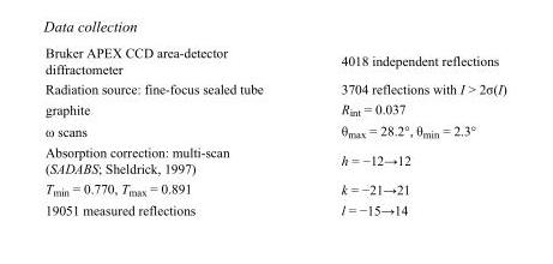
<table><tbody><tr><td>Bruker APEX CCD area-detector diffractometer</td><td>4018 independent reflections</td></tr><tr><td>Radiation source: fine-focus sealed tube</td><td>3704 reflections with I &gt; 2σ(I)</td></tr><tr><td>graphite</td><td>R<sub>int</sub> = 0.037</td></tr><tr><td>ω scans</td><td>θ<sub>max</sub> = 28.2°, θ<sub>min</sub> = 2.3°</td></tr><tr><td>Absorption correction: multi-scan (SADABS; Sheldrick, 1997)</td><td>h = −12→12</td></tr><tr><td>T<sub>min</sub> = 0.770, T<sub>max</sub> = 0.891</td><td>k = −21→21</td></tr><tr><td>19051 measured reflections</td><td>l = −15→14</td></tr></tbody></table>